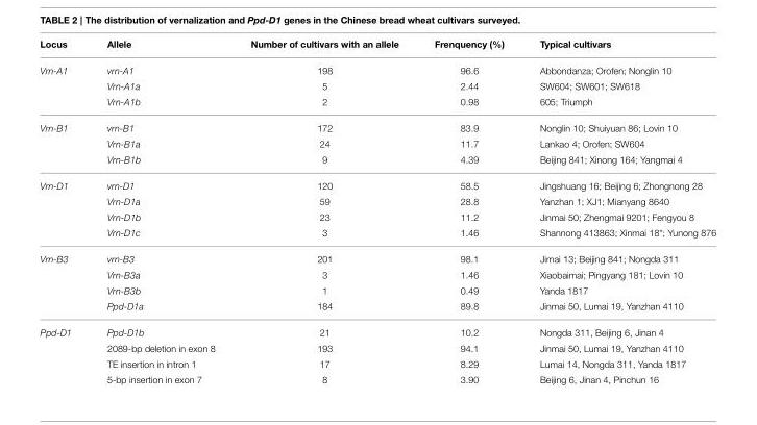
<table><thead><tr><td>Locus</td><td>Allele</td><td>Number of cultivars with an allele</td><td>Frenquency (%)</td><td>Typical cultivars</td></tr></thead><tbody><tr><td rowspan="3">Vrn-A1</td><td>vrn-A1</td><td>198</td><td>96.6</td><td>Abbondanza; Orofen; Nonglin 10</td></tr><tr><td>Vrn-A1a</td><td>5</td><td>2.44</td><td>SW604; SW601; SW618</td></tr><tr><td>Vrn-A1b</td><td>2</td><td>0.98</td><td>605; Triumph</td></tr><tr><td rowspan="3">Vrn-B1</td><td>vrn-B1</td><td>172</td><td>83.9</td><td>Nonglin 10; Shuiyuan 86; Lovin 10</td></tr><tr><td>Vrn-B1a</td><td>24</td><td>11.7</td><td>Lankao 4; Orofen; SW604</td></tr><tr><td>Vrn-B1b</td><td>9</td><td>4.39</td><td>Beijing 841; Xinong 164; Yangmai 4</td></tr><tr><td rowspan="4">Vrn-D1</td><td>vrn-D1</td><td>120</td><td>58.5</td><td>Jingshuang 16; Beijing 6; Zhongnong 28</td></tr><tr><td>Vrn-D1a</td><td>59</td><td>28.8</td><td>Yanzhan 1; XJ1; Mianyang 8640</td></tr><tr><td>Vrn-D1b</td><td>23</td><td>11.2</td><td>Jinmai 50; Zhengmai 9201; Fengyou 8</td></tr><tr><td>Vrn-D1c</td><td>3</td><td>1.46</td><td>Shannong 413863; Xinmai 18*; Yunong 876</td></tr><tr><td rowspan="4">Vrn-B3</td><td>vrn-B3</td><td>201</td><td>98.1</td><td>Jimai 13; Beijing 841; Nongda 311</td></tr><tr><td>Vrn-B3a</td><td>3</td><td>1.46</td><td>Xiaobaimai; Pingyang 181; Lovin 10</td></tr><tr><td>Vrn-B3b</td><td>1</td><td>0.49</td><td>Yanda 1817</td></tr><tr><td>Ppd-D1a</td><td>184</td><td>89.8</td><td>Jinmai 50, Lumai 19, Yanzhan 4110</td></tr><tr><td rowspan="4">Ppd-D1</td><td>Ppd-D1b</td><td>21</td><td>10.2</td><td>Nongda 311, Beijing 6, Jinan 4</td></tr><tr><td>2089-bp deletion in exon 8</td><td>193</td><td>94.1</td><td>Jinmai 50, Lumai 19, Yanzhan 4110</td></tr><tr><td>TE insertion in intron 1</td><td>17</td><td>8.29</td><td>Lumai 14, Nongda 311, Yanda 1817</td></tr><tr><td>5-bp insertion in exon 7</td><td>8</td><td>3.90</td><td>Beijing 6, Jinan 4, Pinchun 16</td></tr></tbody></table>